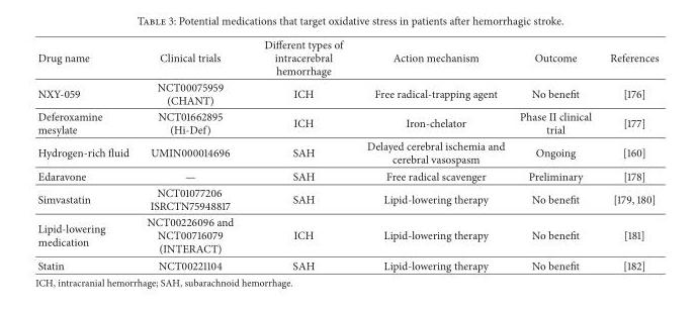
<table><thead><tr><td>Drug name</td><td>Clinical trials</td><td>Different types of intracerebral hemorrhage</td><td>Action mechanism</td><td>Outcome</td><td>References</td></tr></thead><tbody><tr><td>NXY-059</td><td>NCT00075959 (CHANT)</td><td>ICH</td><td>Free radical-trapping agent</td><td>No benefit</td><td>[176]</td></tr><tr><td>Deferoxamine mesylate</td><td>NCT01662895 (Hi-Def)</td><td>ICH</td><td>Iron-chelator</td><td>Phase II clinical trial</td><td>[177]</td></tr><tr><td>Hydrogen-rich fluid</td><td>UMIN000014696</td><td>SAH</td><td>Delayed cerebral ischemia and cerebral vasospasm</td><td>Ongoing</td><td>[160]</td></tr><tr><td>Edaravone</td><td>—</td><td>SAH</td><td>Free radical scavenger</td><td>Preliminary</td><td>[178]</td></tr><tr><td>Simvastatin</td><td>NCT01077206 ISRCTN75948817</td><td>SAH</td><td>Lipid-lowering therapy</td><td>No benefit</td><td>[179, 180]</td></tr><tr><td>Lipid-lowering medication</td><td>NCT00226096 and NCT00716079 (INTERACT)</td><td>ICH</td><td>Lipid-lowering therapy</td><td>No benefit</td><td>[181]</td></tr><tr><td>Statin</td><td>NCT00221104</td><td>SAH</td><td>Lipid-lowering therapy</td><td>No benefit</td><td>[182]</td></tr></tbody></table>